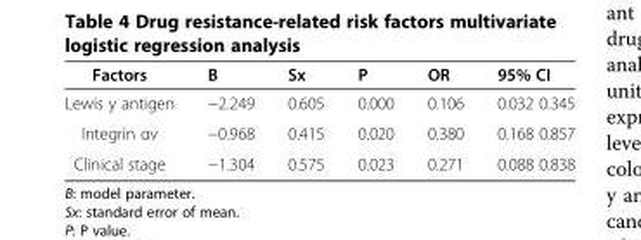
<table><thead><tr><td>Factors</td><td>B</td><td>Sx</td><td>P</td><td>OR</td><td>95% CI</td></tr></thead><tbody><tr><td>Lewis y antigen</td><td>−2.249</td><td>0.605</td><td>0.000</td><td>0.106</td><td>0.032 0.345</td></tr><tr><td>Integrin αv</td><td>−0.968</td><td>0.415</td><td>0.020</td><td>0.380</td><td>0.168 0.857</td></tr><tr><td>Clinical stage</td><td>−1.304</td><td>0.575</td><td>0.023</td><td>0.271</td><td>0.088 0.838</td></tr></tbody></table>